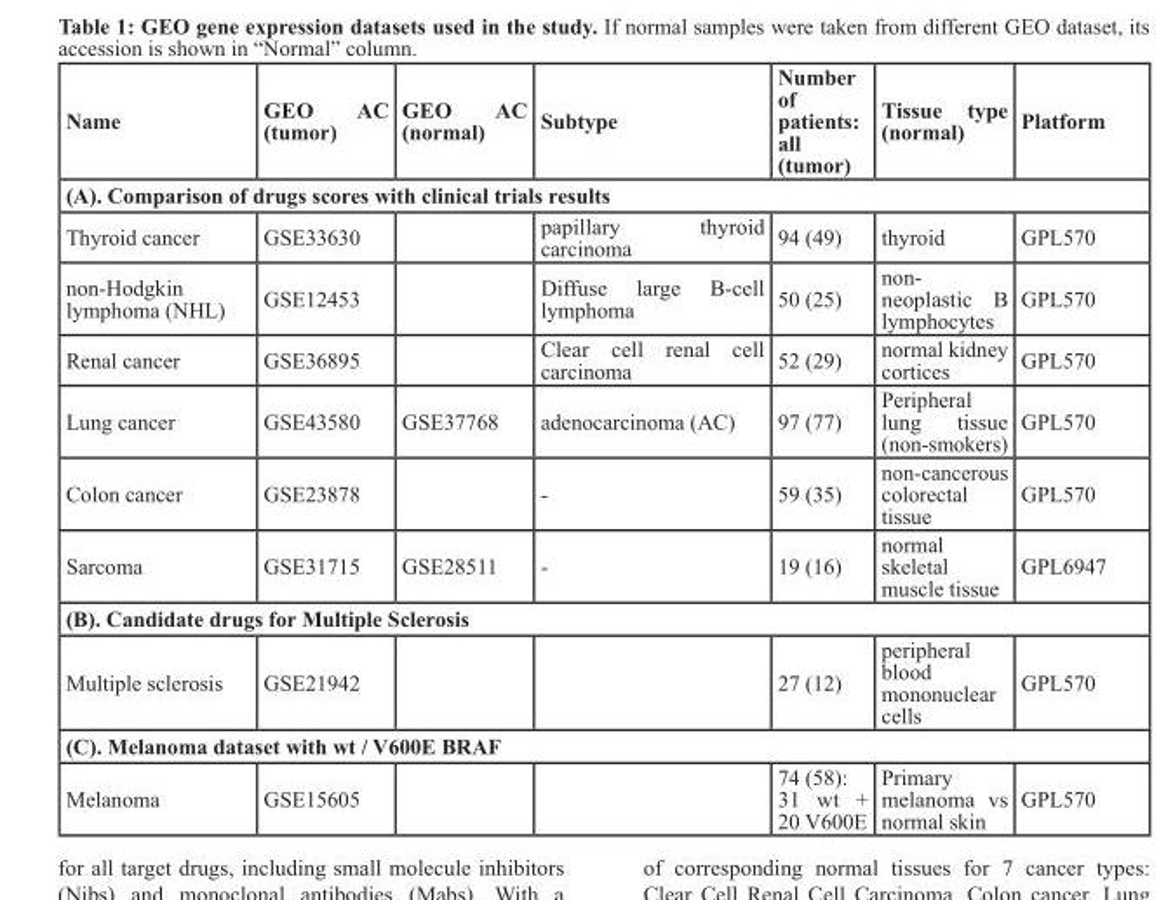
<table><thead><tr><td>Name</td><td>GEO AC (tumor)</td><td>GEO AC (normal)</td><td>Subtype</td><td>Number of patients: all (tumor)</td><td>Tissue type (normal)</td><td>Platform</td></tr></thead><tbody><tr><td colspan="7">(A). Comparison of drugs scores with clinical trials results</td></tr><tr><td>Thyroid cancer</td><td>GSE33630</td><td></td><td>papillary thyroid carcinoma</td><td>94 (49)</td><td>thyroid</td><td>GPL570</td></tr><tr><td>non-Hodgkin lymphoma (NHL)</td><td>GSE12453</td><td></td><td>Diffuse large B-cell lymphoma</td><td>50 (25)</td><td>non- neoplastic B lymphocytes</td><td>GPL570</td></tr><tr><td>Renal cancer</td><td>GSE36895</td><td></td><td>Clear cell renal cell carcinoma</td><td>52 (29)</td><td>normal kidney cortices</td><td>GPL570</td></tr><tr><td>Lung cancer</td><td>GSE43580</td><td>GSE37768</td><td>adenocarcinoma (AC)</td><td>97 (77)</td><td>Peripheral lung tissue (non-smokers)</td><td>GPL570</td></tr><tr><td>Colon cancer</td><td>GSE23878</td><td></td><td>-</td><td>59 (35)</td><td>non-cancerous colorectal tissue</td><td>GPL570</td></tr><tr><td>Sarcoma</td><td>GSE31715</td><td>GSE28511</td><td>-</td><td>19 (16)</td><td>normal skeletal muscle tissue</td><td>GPL6947</td></tr><tr><td colspan="7">(B). Candidate drugs for Multiple Sclerosis</td></tr><tr><td>Multiple sclerosis</td><td>GSE21942</td><td></td><td></td><td>27 (12)</td><td>peripheral blood mononuclear cells</td><td>GPL570</td></tr><tr><td colspan="7">(C). Melanoma dataset with wt / V600E BRAF</td></tr><tr><td>Melanoma</td><td>GSE15605</td><td></td><td></td><td>74 (58): 31 wt + 20 V600E</td><td>Primary melanoma vs normal skin</td><td>GPL570</td></tr></tbody></table>